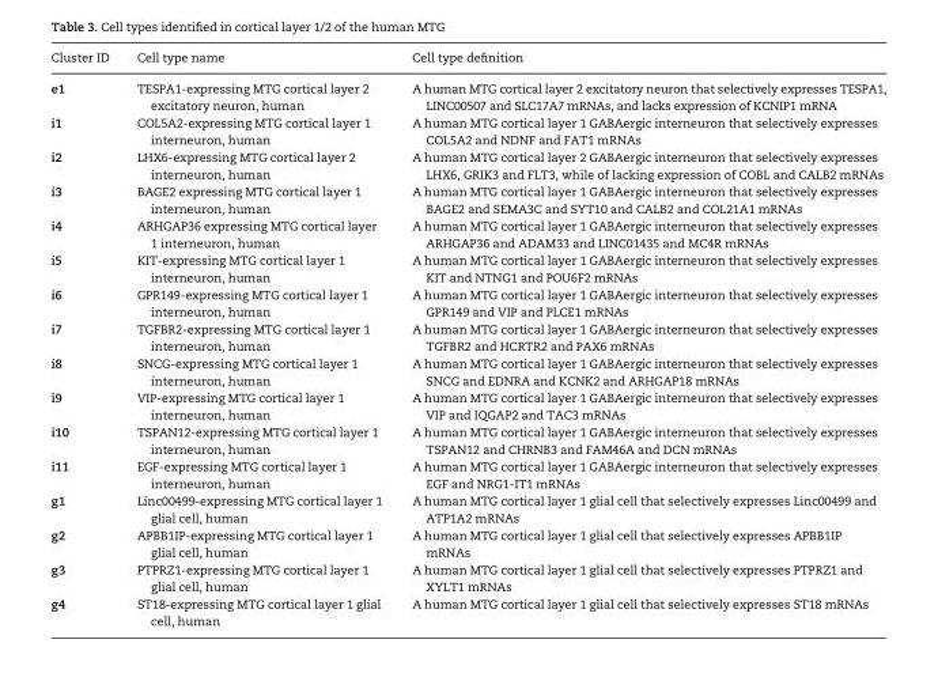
<table><thead><tr><td>Cluster ID</td><td>Cell type name</td><td>Cell type definition</td></tr></thead><tbody><tr><td>e1</td><td>TESPA1-expressing MTG cortical layer 2 excitatory neuron, human</td><td>A human MTG cortical layer 2 excitatory neuron that selectively expresses TESPA1, LINC00507 and SLC17A7 mRNAs, and lacks expression of KCNIP1 mRNA</td></tr><tr><td>i1</td><td>COL5A2-expressing MTG cortical layer 1 interneuron, human</td><td>A human MTG cortical layer 1 GABAergic interneuron that selectively expresses COL5A2 and NDNF and FAT1 mRNAs</td></tr><tr><td>i2</td><td>LHX6-expressing MTG cortical layer 2 interneuron, human</td><td>A human MTG cortical layer 2 GABAergic interneuron that selectively expresses LHX6, GRIK3 and FLT3, while of lacking expression of COBL and CALB2 mRNAs</td></tr><tr><td>i3</td><td>BAGE2 expressing MTG cortical layer 1 interneuron, human</td><td>A human MTG cortical layer 1 GABAergic interneuron that selectively expresses BAGE2 and SEMA3C and SYT10 and CALB2 and COL21A1 mRNAs</td></tr><tr><td>i4</td><td>ARHGAP36 expressing MTG cortical layer 1 interneuron, human</td><td>A human MTG cortical layer 1 GABAergic interneuron that selectively expresses ARHGAP36 and ADAM33 and LINC01435 and MC4R mRNAs</td></tr><tr><td>i5</td><td>KIT-expressing MTG cortical layer 1 interneuron, human</td><td>A human MTG cortical layer 1 GABAergic interneuron that selectively expresses KIT and NTNG1 and POU6F2 mRNAs</td></tr><tr><td>i6</td><td>GPR149-expressing MTG cortical layer 1 interneuron, human</td><td>A human MTG cortical layer 1 GABAergic interneuron that selectively expresses GPR149 and VIP and PLCE1 mRNAs</td></tr><tr><td>i7</td><td>TGFBR2-expressing MTG cortical layer 1 interneuron, human</td><td>A human MTG cortical layer 1 GABAergic interneuron that selectively expresses TGFBR2 and HCRTR2 and PAX6 mRNAs</td></tr><tr><td>i8</td><td>SNCG-expressing MTG cortical layer 1 interneuron, human</td><td>A human MTG cortical layer 1 GABAergic interneuron that selectively expresses SNCG and EDNRA and KCNK2 and ARHGAP18 mRNAs</td></tr><tr><td>i9</td><td>VIP-expressing MTG cortical layer 1 interneuron, human</td><td>A human MTG cortical layer 1 GABAergic interneuron that selectively expresses VIP and IQGAP2 and TAC3 mRNAs</td></tr><tr><td>i10</td><td>TSPAN12-expressing MTG cortical layer 1 interneuron, human</td><td>A human MTG cortical layer 1 GABAergic interneuron that selectively expresses TSPAN12 and CHRNB3 and FAM46A and DCN mRNAs</td></tr><tr><td>i11</td><td>EGF-expressing MTG cortical layer 1 interneuron, human</td><td>A human MTG cortical layer 1 GABAergic interneuron that selectively expresses EGF and NRG1-IT1 mRNAs</td></tr><tr><td>g1</td><td>Linc00499-expressing MTG cortical layer 1 glial cell, human</td><td>A human MTG cortical layer 1 glial cell that selectively expresses Linc00499 and ATP1A2 mRNAs</td></tr><tr><td>g2</td><td>APBB1IP-expressing MTG cortical layer 1 glial cell, human</td><td>A human MTG cortical layer 1 glial cell that selectively expresses APBB1IP mRNAs</td></tr><tr><td>g3</td><td>PTPRZ1-expressing MTG cortical layer 1 glial cell, human</td><td>A human MTG cortical layer 1 glial cell that selectively expresses PTPRZ1 and XYLT1 mRNAs</td></tr><tr><td>g4</td><td>ST18-expressing MTG cortical layer 1 glial cell, human</td><td>A human MTG cortical layer 1 glial cell that selectively expresses ST18 mRNAs</td></tr></tbody></table>